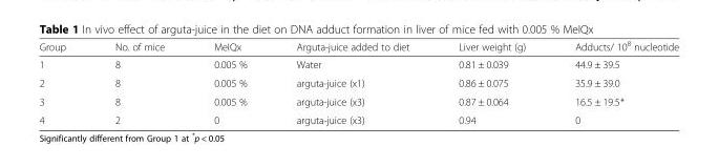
<table><thead><tr><td>Group</td><td>No. of mice</td><td>MeIQx</td><td>Arguta-juice added to diet</td><td>Liver weight (g)</td><td>Adducts/ 10<sup>8</sup> nucleotide</td></tr></thead><tbody><tr><td>1</td><td>8</td><td>0.005 %</td><td>Water</td><td>0.81 ± 0.039</td><td>44.9 ± 39.5</td></tr><tr><td>2</td><td>8</td><td>0.005 %</td><td>arguta-juice (x1)</td><td>0.86 ± 0.075</td><td>35.9 ± 39.0</td></tr><tr><td>3</td><td>8</td><td>0.005 %</td><td>arguta-juice (x3)</td><td>0.87 ± 0.064</td><td>16.5 ± 19.5*</td></tr><tr><td>4</td><td>2</td><td>0</td><td>arguta-juice (x3)</td><td>0.94</td><td>0</td></tr></tbody></table>